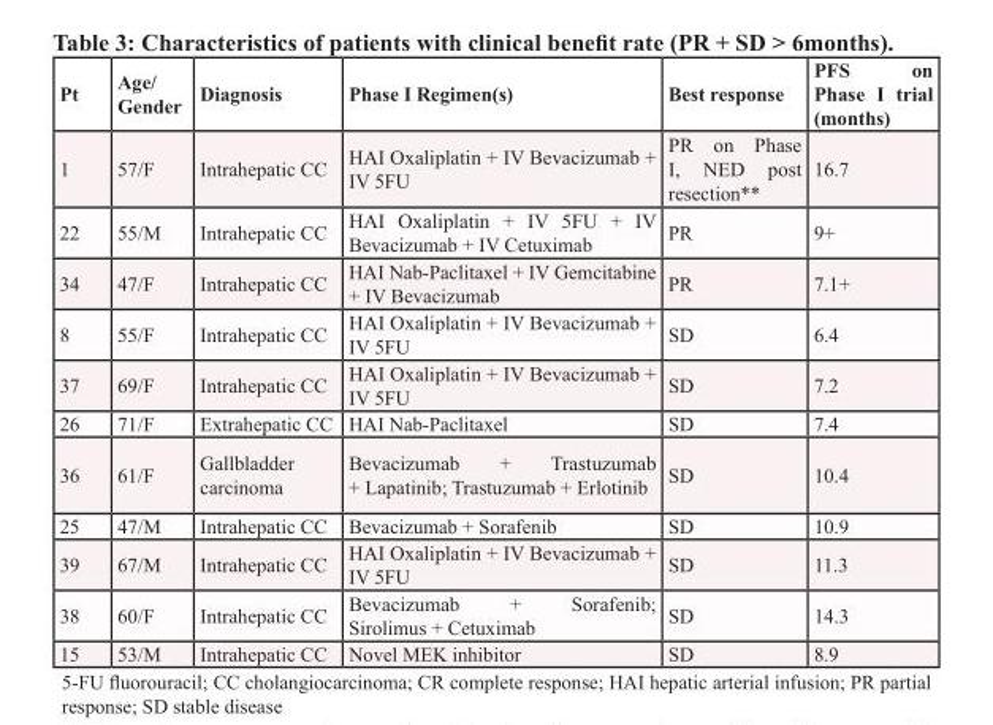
<table><thead><tr><td>Pt</td><td>Age/ Gender</td><td>Diagnosis</td><td>Phase I Regimen(s)</td><td>Best response</td><td>PFS on Phase I trial (months)</td></tr></thead><tbody><tr><td>1</td><td>57/F</td><td>Intrahepatic CC</td><td>HAI Oxaliplatin + IV Bevacizumab + IV 5FU</td><td>PR on Phase I, NED post resection**</td><td>16.7</td></tr><tr><td>22</td><td>55/M</td><td>Intrahepatic CC</td><td>HAI Oxaliplatin + IV 5FU + IV Bevacizumab + IV Cetuximab</td><td>PR</td><td>9+</td></tr><tr><td>34</td><td>47/F</td><td>Intrahepatic CC</td><td>HAI Nab-Paclitaxel + IV Gemcitabine + IV Bevacizumab</td><td>PR</td><td>7.1+</td></tr><tr><td>8</td><td>55/F</td><td>Intrahepatic CC</td><td>HAI Oxaliplatin + IV Bevacizumab + IV 5FU</td><td>SD</td><td>6.4</td></tr><tr><td>37</td><td>69/F</td><td>Intrahepatic CC</td><td>HAI Oxaliplatin + IV Bevacizumab + IV 5FU</td><td>SD</td><td>7.2</td></tr><tr><td>26</td><td>71/F</td><td>Extrahepatic CC</td><td>HAI Nab-Paclitaxel</td><td>SD</td><td>7.4</td></tr><tr><td>36</td><td>61/F</td><td>Gallbladder carcinoma</td><td>Bevacizumab + Trastuzumab + Lapatinib; Trastuzumab + Erlotinib</td><td>SD</td><td>10.4</td></tr><tr><td>25</td><td>47/M</td><td>Intrahepatic CC</td><td>Bevacizumab + Sorafenib</td><td>SD</td><td>10.9</td></tr><tr><td>39</td><td>67/M</td><td>Intrahepatic CC</td><td>HAI Oxaliplatin + IV Bevacizumab + IV 5FU</td><td>SD</td><td>11.3</td></tr><tr><td>38</td><td>60/F</td><td>Intrahepatic CC</td><td>Bevacizumab + Sorafenib; Sirolimus + Cetuximab</td><td>SD</td><td>14.3</td></tr><tr><td>15</td><td>53/M</td><td>Intrahepatic CC</td><td>Novel MEK inhibitor</td><td>SD</td><td>8.9</td></tr></tbody></table>